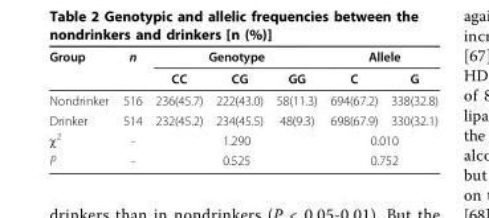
<table><thead><tr><td rowspan="2">Group</td><td rowspan="2">n</td><td colspan="3">Genotype</td><td colspan="2">Allele</td></tr><tr><td>CC</td><td>CG</td><td>GG</td><td>C</td><td>G</td></tr></thead><tbody><tr><td>Nondrinker</td><td>516</td><td>236(45.7)</td><td>222(43.0)</td><td>58(11.3)</td><td>694(67.2)</td><td>338(32.8)</td></tr><tr><td>Drinker</td><td>514</td><td>232(45.2)</td><td>234(45.5)</td><td>48(9.3)</td><td>698(67.9)</td><td>330(32.1)</td></tr><tr><td>χ<sup>2</sup></td><td>-</td><td colspan="3">1.290</td><td colspan="2">0.010</td></tr><tr><td>P</td><td>-</td><td colspan="3">0.525</td><td colspan="2">0.752</td></tr></tbody></table>